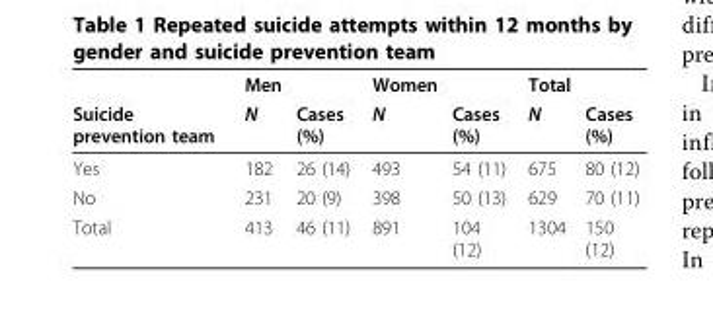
<table><thead><tr><td rowspan="2">Suicide prevention team</td><td rowspan="2">Men N</td><td rowspan="2">Cases (%)</td><td rowspan="2">Women N</td><td rowspan="2">Cases (%)</td><td rowspan="2">Total N</td><td rowspan="2">Cases (%)</td></tr><tr></tr></thead><tbody><tr><td>Yes</td><td>182</td><td>26 (14)</td><td>493</td><td>54 (11)</td><td>675</td><td>80 (12)</td></tr><tr><td>No</td><td>231</td><td>20 (9)</td><td>398</td><td>50 (13)</td><td>629</td><td>70 (11)</td></tr><tr><td>Total</td><td>413</td><td>46 (11)</td><td>891</td><td>104 (12)</td><td>1304</td><td>150 (12)</td></tr></tbody></table>